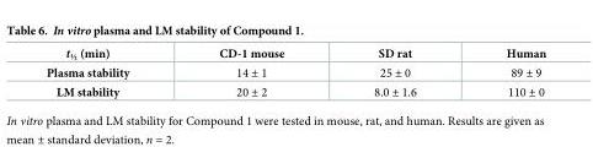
<table><thead><tr><td>t<sub>½</sub> (min)</td><td>CD-1 mouse</td><td>SD rat</td><td>Human</td></tr></thead><tbody><tr><td>Plasma stability</td><td>14 ± 1</td><td>25 ± 0</td><td>89 ± 9</td></tr><tr><td>LM stability</td><td>20 ± 2</td><td>8.0 ± 1.6</td><td>110 ± 0</td></tr></tbody></table>